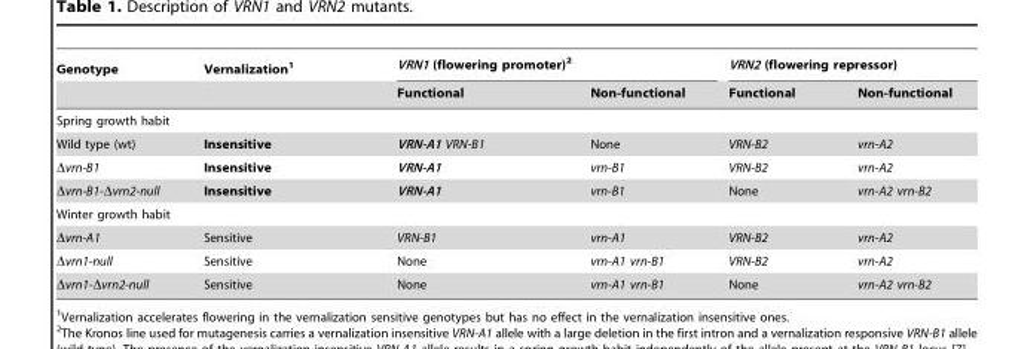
<table><thead><tr><td rowspan="2">Genotype</td><td rowspan="2">Vernalization<sup>1</sup></td><td colspan="2">VRN1 (flowering promoter)<sup>2</sup></td><td colspan="2">VRN2 (flowering repressor)</td></tr><tr><td>Functional</td><td>Non-functional</td><td>Functional</td><td>Non-functional</td></tr></thead><tbody><tr><td colspan="6">Spring growth habit</td></tr><tr><td>Wild type (wt)</td><td>Insensitive</td><td>VRN-A1 VRN-B1</td><td>None</td><td>VRN-B2</td><td>vrn-A2</td></tr><tr><td>Δvrn-B1</td><td>Insensitive</td><td>VRN-A1</td><td>vrn-B1</td><td>VRN-B2</td><td>vrn-A2</td></tr><tr><td>Δvrn-B1-Δvrn2-null</td><td>Insensitive</td><td>VRN-A1</td><td>vrn-B1</td><td>None</td><td>vrn-A2 vrn-B2</td></tr><tr><td colspan="6">Winter growth habit</td></tr><tr><td>Δvrn-A1</td><td>Sensitive</td><td>VRN-B1</td><td>vrn-A1</td><td>VRN-B2</td><td>vrn-A2</td></tr><tr><td>Δvrn1-null</td><td>Sensitive</td><td>None</td><td>vrn-A1 vrn-B1</td><td>VRN-B2</td><td>vrn-A2</td></tr><tr><td>Δvrn1-Δvrn2-null</td><td>Sensitive</td><td>None</td><td>vrn-A1 vrn-B1</td><td>None</td><td>vrn-A2 vrn-B2</td></tr></tbody></table>